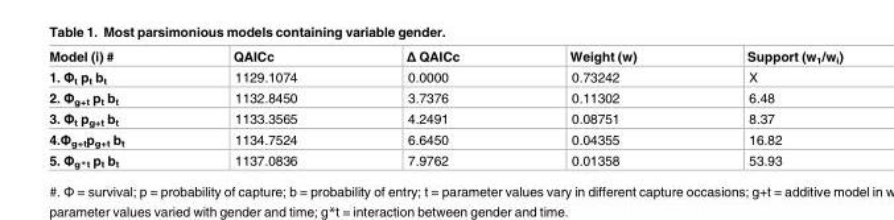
<table><thead><tr><td>Model (i) #</td><td>QAICc</td><td>Δ QAICc</td><td>Weight (w)</td><td>Support (w<sub>1</sub>/w<sub>i</sub>)</td></tr></thead><tbody><tr><td>1. Φ<sub>t</sub> p<sub>t</sub> b<sub>t</sub></td><td>1129.1074</td><td>0.0000</td><td>0.73242</td><td>X</td></tr><tr><td>2. Φ<sub>g+t</sub> p<sub>t</sub> b<sub>t</sub></td><td>1132.8450</td><td>3.7376</td><td>0.11302</td><td>6.48</td></tr><tr><td>3. Φ<sub>t</sub> p<sub>g+t</sub> b<sub>t</sub></td><td>1133.3565</td><td>4.2491</td><td>0.08751</td><td>8.37</td></tr><tr><td>4.Φ<sub>g+t</sub>p<sub>g+t</sub> b<sub>t</sub></td><td>1134.7524</td><td>6.6450</td><td>0.04355</td><td>16.82</td></tr><tr><td>5. Φ<sub>g*t</sub> p<sub>t</sub> b<sub>t</sub></td><td>1137.0836</td><td>7.9762</td><td>0.01358</td><td>53.93</td></tr></tbody></table>